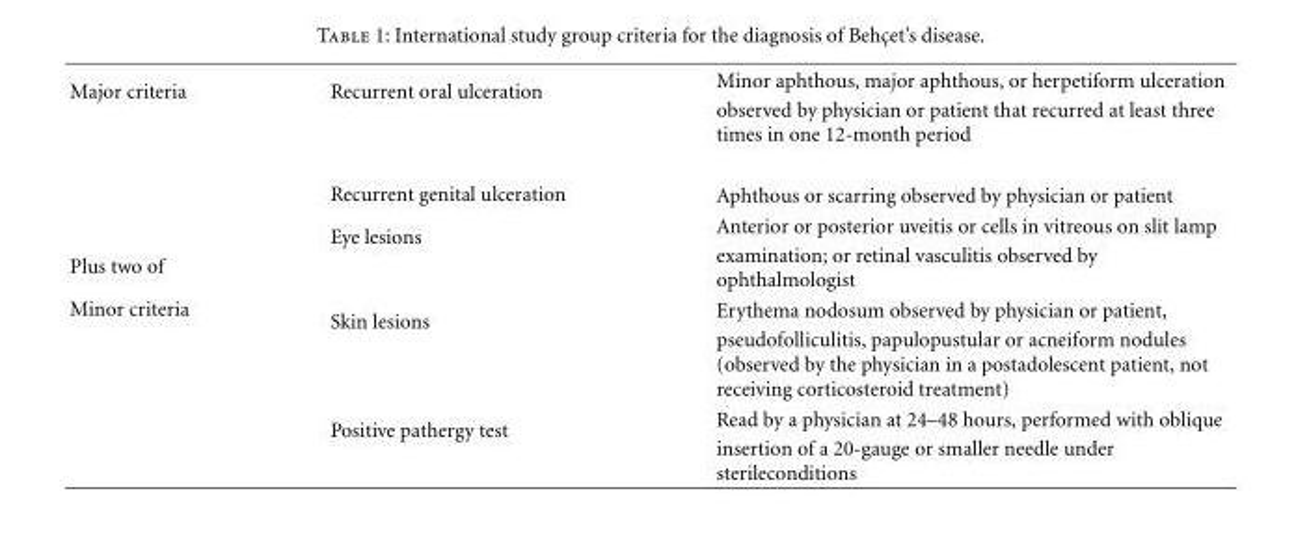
<table><tbody><tr><td rowspan="4">Major criteria</td><td rowspan="2">Recurrent oral ulceration</td><td>Minor aphthous, major aphthous, or herpetiform ulceration</td></tr><tr><td>observed by physician or patient that recurred at least three times in one 12-month period</td></tr><tr><td>Recurrent genital ulceration</td><td>Aphthous or scarring observed by physician or patient</td></tr><tr><td rowspan="2">Eye lesions</td><td>Anterior or posterior uveitis or cells in vitreous on slit lamp</td></tr><tr><td>Plus two of</td><td>examination; or retinal vasculitis observed by ophthalmologist</td></tr><tr><td rowspan="4">Minor criteria</td><td rowspan="2">Skin lesions</td><td>Erythema nodosum observed by physician or patient,</td></tr><tr><td>pseudofolliculitis, papulopustular or acneiform nodules (observed by the physician in a postadolescent patient, not receiving corticosteroid treatment)</td></tr><tr><td rowspan="2">Positive pathergy test</td><td>Read by a physician at 24–48 hours, performed with oblique</td></tr><tr><td>insertion of a 20-gauge or smaller needle under sterileconditions</td></tr></tbody></table>